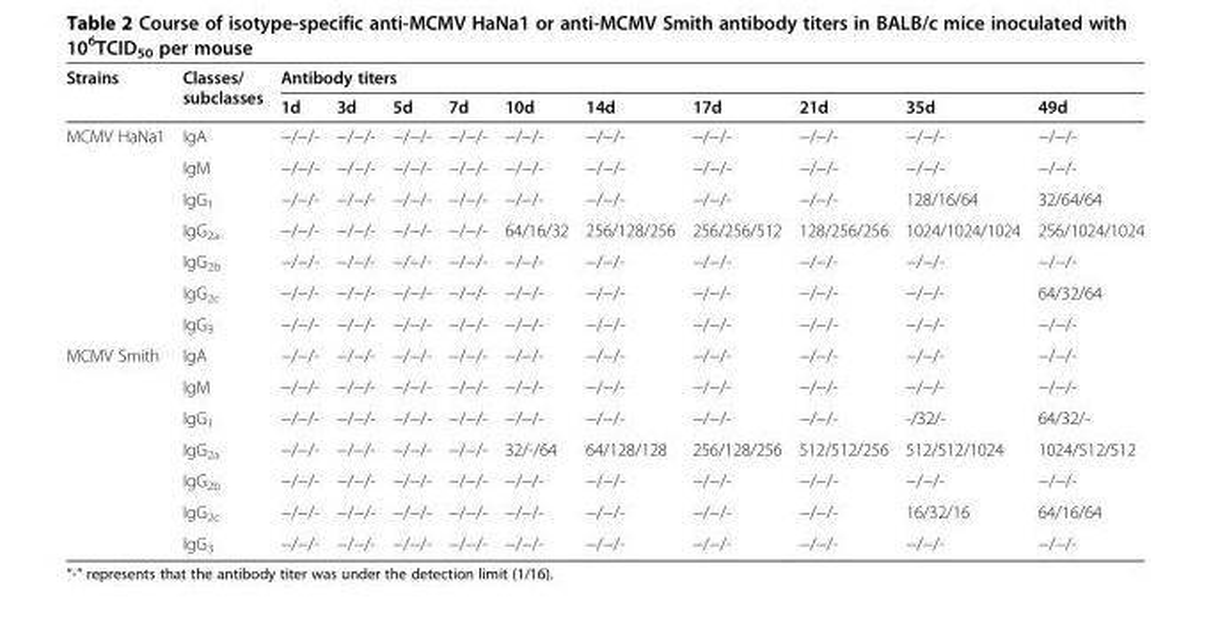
<table><thead><tr><td rowspan="2">Strains</td><td rowspan="2">Classes/ subclasses</td><td colspan="10">Antibody titers</td></tr><tr><td>1d</td><td>3d</td><td>5d</td><td>7d</td><td>10d</td><td>14d</td><td>17d</td><td>21d</td><td>35d</td><td>49d</td></tr></thead><tbody><tr><td rowspan="7">MCMV HaNa1</td><td>IgA</td><td>−/−/-</td><td>−/−/-</td><td>−/−/-</td><td>−/−/-</td><td>−/−/-</td><td>−/−/-</td><td>−/−/-</td><td>−/−/-</td><td>−/−/-</td><td>−/−/-</td></tr><tr><td>IgM</td><td>−/−/-</td><td>−/−/-</td><td>−/−/-</td><td>−/−/-</td><td>−/−/-</td><td>−/−/-</td><td>−/−/-</td><td>−/−/-</td><td>−/−/-</td><td>−/−/-</td></tr><tr><td>IgG<sub>1</sub></td><td>−/−/-</td><td>−/−/-</td><td>−/−/-</td><td>−/−/-</td><td>−/−/-</td><td>−/−/-</td><td>−/−/-</td><td>−/−/-</td><td>128/16/64</td><td>32/64/64</td></tr><tr><td>IgG<sub>2a</sub></td><td>−/−/-</td><td>−/−/-</td><td>−/−/-</td><td>−/−/-</td><td>64/16/32</td><td>256/128/256</td><td>256/256/512</td><td>128/256/256</td><td>1024/1024/1024</td><td>256/1024/1024</td></tr><tr><td>IgG<sub>2b</sub></td><td>−/−/-</td><td>−/−/-</td><td>−/−/-</td><td>−/−/-</td><td>−/−/-</td><td>−/−/-</td><td>−/−/-</td><td>−/−/-</td><td>−/−/-</td><td>−/−/-</td></tr><tr><td>IgG<sub>2c</sub></td><td>−/−/-</td><td>−/−/-</td><td>−/−/-</td><td>−/−/-</td><td>−/−/-</td><td>−/−/-</td><td>−/−/-</td><td>−/−/-</td><td>−/−/-</td><td>64/32/64</td></tr><tr><td>IgG<sub>3</sub></td><td>−/−/-</td><td>−/−/-</td><td>−/−/-</td><td>−/−/-</td><td>−/−/-</td><td>−/−/-</td><td>−/−/-</td><td>−/−/-</td><td>−/−/-</td><td>−/−/-</td></tr><tr><td rowspan="7">MCMV Smith</td><td>IgA</td><td>−/−/-</td><td>−/−/-</td><td>−/−/-</td><td>−/−/-</td><td>−/−/-</td><td>−/−/-</td><td>−/−/-</td><td>−/−/-</td><td>−/−/-</td><td>−/−/-</td></tr><tr><td>IgM</td><td>−/−/-</td><td>−/−/-</td><td>−/−/-</td><td>−/−/-</td><td>−/−/-</td><td>−/−/-</td><td>−/−/-</td><td>−/−/-</td><td>−/−/-</td><td>−/−/-</td></tr><tr><td>IgG<sub>1</sub></td><td>−/−/-</td><td>−/−/-</td><td>−/−/-</td><td>−/−/-</td><td>−/−/-</td><td>−/−/-</td><td>−/−/-</td><td>−/−/-</td><td>-/32/-</td><td>64/32/-</td></tr><tr><td>IgG<sub>2a</sub></td><td>−/−/-</td><td>−/−/-</td><td>−/−/-</td><td>−/−/-</td><td>32/-/64</td><td>64/128/128</td><td>256/128/256</td><td>512/512/256</td><td>512/512/1024</td><td>1024/512/512</td></tr><tr><td>IgG<sub>2b</sub></td><td>−/−/-</td><td>−/−/-</td><td>−/−/-</td><td>−/−/-</td><td>−/−/-</td><td>−/−/-</td><td>−/−/-</td><td>−/−/-</td><td>−/−/-</td><td>−/−/-</td></tr><tr><td>IgG<sub>2c</sub></td><td>−/−/-</td><td>−/−/-</td><td>−/−/-</td><td>−/−/-</td><td>−/−/-</td><td>−/−/-</td><td>−/−/-</td><td>−/−/-</td><td>16/32/16</td><td>64/16/64</td></tr><tr><td>IgG<sub>3</sub></td><td>−/−/-</td><td>−/−/-</td><td>−/−/-</td><td>−/−/-</td><td>−/−/-</td><td>−/−/-</td><td>−/−/-</td><td>−/−/-</td><td>−/−/-</td><td>−/−/-</td></tr></tbody></table>